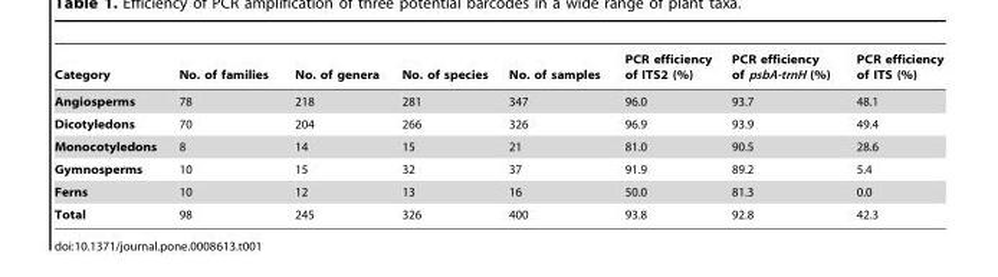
<table><thead><tr><td>Category</td><td>No. of families</td><td>No. of genera</td><td>No. of species</td><td>No. of samples</td><td>PCR efficiency of ITS2 (%)</td><td>PCR efficiency of psbA-trnH (%)</td><td>PCR efficiency of ITS (%)</td></tr></thead><tbody><tr><td>Angiosperms</td><td>78</td><td>218</td><td>281</td><td>347</td><td>96.0</td><td>93.7</td><td>48.1</td></tr><tr><td>Dicotyledons</td><td>70</td><td>204</td><td>266</td><td>326</td><td>96.9</td><td>93.9</td><td>49.4</td></tr><tr><td>Monocotyledons</td><td>8</td><td>14</td><td>15</td><td>21</td><td>81.0</td><td>90.5</td><td>28.6</td></tr><tr><td>Gymnosperms</td><td>10</td><td>15</td><td>32</td><td>37</td><td>91.9</td><td>89.2</td><td>5.4</td></tr><tr><td>Ferns</td><td>10</td><td>12</td><td>13</td><td>16</td><td>50.0</td><td>81.3</td><td>0.0</td></tr><tr><td>Total</td><td>98</td><td>245</td><td>326</td><td>400</td><td>93.8</td><td>92.8</td><td>42.3</td></tr></tbody></table>